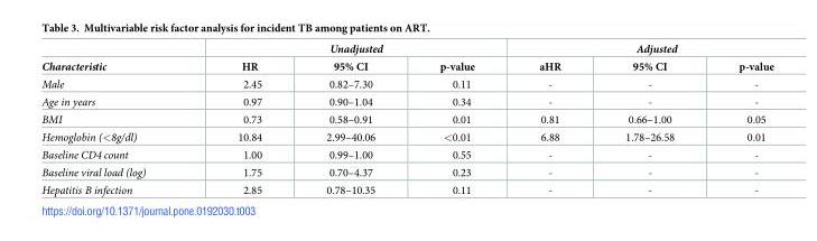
<table><thead><tr><td rowspan="2">Characteristic</td><td colspan="3">Unadjusted</td><td colspan="3">Adjusted</td></tr><tr><td>HR</td><td>95% CI</td><td>p-value</td><td>aHR</td><td>95% CI</td><td>p-value</td></tr></thead><tbody><tr><td>Male</td><td>2.45</td><td>0.82–7.30</td><td>0.11</td><td>-</td><td>-</td><td>-</td></tr><tr><td>Age in years</td><td>0.97</td><td>0.90–1.04</td><td>0.34</td><td>-</td><td>-</td><td>-</td></tr><tr><td>BMI</td><td>0.73</td><td>0.58–0.91</td><td>0.01</td><td>0.81</td><td>0.66–1.00</td><td>0.05</td></tr><tr><td>Hemoglobin (&lt;8g/dl)</td><td>10.84</td><td>2.99–40.06</td><td>&lt;0.01</td><td>6.88</td><td>1.78–26.58</td><td>0.01</td></tr><tr><td>Baseline CD4 count</td><td>1.00</td><td>0.99–1.00</td><td>0.55</td><td>-</td><td>-</td><td>-</td></tr><tr><td>Baseline viral load (log)</td><td>1.75</td><td>0.70–4.37</td><td>0.23</td><td>-</td><td>-</td><td>-</td></tr><tr><td>Hepatitis B infection</td><td>2.85</td><td>0.78–10.35</td><td>0.11</td><td>-</td><td>-</td><td>-</td></tr></tbody></table>